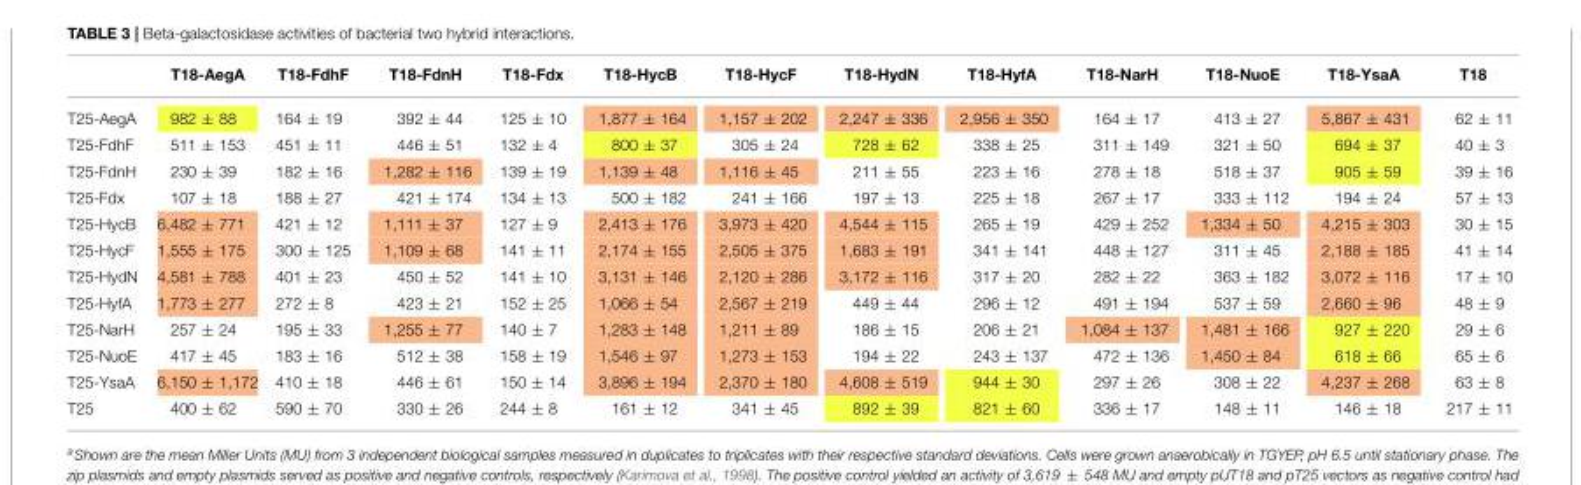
<table><thead><tr><td></td><td>T18-AegA</td><td>T18-FdhF</td><td>T18-FdnH</td><td>T18-Fdx</td><td>T18-HycB</td><td>T18-HycF</td><td>T18-HydN</td><td>T18-HyfA</td><td>T18-NarH</td><td>T18-NuoE</td><td>T18-YsaA</td><td>T18</td></tr></thead><tbody><tr><td>T25-AegA</td><td>982 ± 88</td><td>164 ± 19</td><td>392 ± 44</td><td>125 ± 10</td><td>1,877 ± 164</td><td>1,157 ± 202</td><td>2,247 ± 336</td><td>2,956 ± 350</td><td>164 ± 17</td><td>413 ± 27</td><td>5,867 ± 431</td><td>62 ± 11</td></tr><tr><td>T25-FdhF</td><td>511 ± 153</td><td>451 ± 11</td><td>446 ± 51</td><td>132 ± 4</td><td>800 ± 37</td><td>305 ± 24</td><td>728 ± 62</td><td>338 ± 25</td><td>311 ± 149</td><td>321 ± 50</td><td>694 ± 37</td><td>40 ± 3</td></tr><tr><td>T25-FdnH</td><td>230 ± 39</td><td>182 ± 16</td><td>1,282 ± 116</td><td>139 ± 19</td><td>1,139 ± 48</td><td>1,116 ± 45</td><td>211 ± 55</td><td>223 ± 16</td><td>278 ± 18</td><td>518 ± 37</td><td>905 ± 59</td><td>39 ± 16</td></tr><tr><td>T25-Fdx</td><td>107 ± 18</td><td>188 ± 27</td><td>421 ± 174</td><td>134 ± 13</td><td>500 ± 182</td><td>241 ± 166</td><td>197 ± 13</td><td>225 ± 18</td><td>267 ± 17</td><td>333 ± 112</td><td>194 ± 24</td><td>57 ± 13</td></tr><tr><td>T25-HycB</td><td>6,482 ± 771</td><td>421 ± 12</td><td>1,111 ± 37</td><td>127 ± 9</td><td>2,413 ± 176</td><td>3,973 ± 420</td><td>4,544 ± 115</td><td>265 ± 19</td><td>429 ± 252</td><td>1,334 ± 50</td><td>4,215 ± 303</td><td>30 ± 15</td></tr><tr><td>T25-HycF</td><td>1,555 ± 175</td><td>300 ± 125</td><td>1,109 ± 68</td><td>141 ± 11</td><td>2,174 ± 155</td><td>2,505 ± 375</td><td>1,683 ± 191</td><td>341 ± 141</td><td>448 ± 127</td><td>311 ± 45</td><td>2,188 ± 185</td><td>41 ± 14</td></tr><tr><td>T25-HydN</td><td>4,581 ± 788</td><td>401 ± 23</td><td>450 ± 52</td><td>141 ± 10</td><td>3,131 ± 146</td><td>2,120 ± 286</td><td>3,172 ± 116</td><td>317 ± 20</td><td>282 ± 22</td><td>363 ± 182</td><td>3,072 ± 116</td><td>17 ± 10</td></tr><tr><td>T25-HyfA</td><td>1,773 ± 277</td><td>272 ± 8</td><td>423 ± 21</td><td>152 ± 25</td><td>1,066 ± 54</td><td>2,567 ± 219</td><td>449 ± 44</td><td>296 ± 12</td><td>491 ± 194</td><td>537 ± 59</td><td>2,660 ± 96</td><td>48 ± 9</td></tr><tr><td>T25-NarH</td><td>257 ± 24</td><td>195 ± 33</td><td>1,255 ± 77</td><td>140 ± 7</td><td>1,283 ± 148</td><td>1,211 ± 89</td><td>186 ± 15</td><td>206 ± 21</td><td>1,084 ± 137</td><td>1,481 ± 166</td><td>927 ± 220</td><td>29 ± 6</td></tr><tr><td>T25-NuoE</td><td>417 ± 45</td><td>183 ± 16</td><td>512 ± 38</td><td>158 ± 19</td><td>1,546 ± 97</td><td>1,273 ± 153</td><td>194 ± 22</td><td>243 ± 137</td><td>472 ± 136</td><td>1,450 ± 84</td><td>618 ± 66</td><td>65 ± 6</td></tr><tr><td>T25-YsaA</td><td>6,150 ± 1,172</td><td>410 ± 18</td><td>446 ± 61</td><td>150 ± 14</td><td>3,896 ± 194</td><td>2,370 ± 180</td><td>4,608 ± 519</td><td>944 ± 30</td><td>297 ± 26</td><td>308 ± 22</td><td>4,237 ± 268</td><td>63 ± 8</td></tr><tr><td>T25</td><td>400 ± 62</td><td>590 ± 70</td><td>330 ± 26</td><td>244 ± 8</td><td>161 ± 12</td><td>341 ± 45</td><td>892 ± 39</td><td>821 ± 60</td><td>336 ± 17</td><td>148 ± 11</td><td>146 ± 18</td><td>217 ± 11</td></tr></tbody></table>